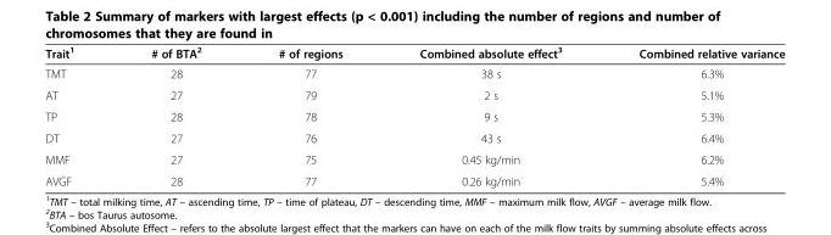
<table><thead><tr><td>Trait<sup>1</sup></td><td># of BTA<sup>2</sup></td><td># of regions</td><td>Combined absolute effect<sup>3</sup></td><td>Combined relative variance</td></tr></thead><tbody><tr><td>TMT</td><td>28</td><td>77</td><td>38 s</td><td>6.3%</td></tr><tr><td>AT</td><td>27</td><td>79</td><td>2 s</td><td>5.1%</td></tr><tr><td>TP</td><td>28</td><td>78</td><td>9 s</td><td>5.3%</td></tr><tr><td>DT</td><td>27</td><td>76</td><td>43 s</td><td>6.4%</td></tr><tr><td>MMF</td><td>27</td><td>75</td><td>0.45 kg/min</td><td>6.2%</td></tr><tr><td>AVGF</td><td>28</td><td>77</td><td>0.26 kg/min</td><td>5.4%</td></tr></tbody></table>